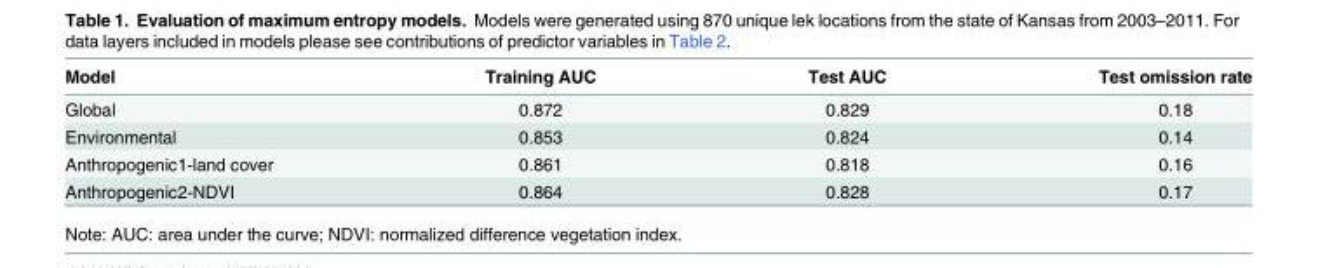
<table><thead><tr><td>Model</td><td>Training AUC</td><td>Test AUC</td><td>Test omission rate</td></tr></thead><tbody><tr><td>Global</td><td>0.872</td><td>0.829</td><td>0.18</td></tr><tr><td>Environmental</td><td>0.853</td><td>0.824</td><td>0.14</td></tr><tr><td>Anthropogenic1-land cover</td><td>0.861</td><td>0.818</td><td>0.16</td></tr><tr><td>Anthropogenic2-NDVI</td><td>0.864</td><td>0.828</td><td>0.17</td></tr></tbody></table>